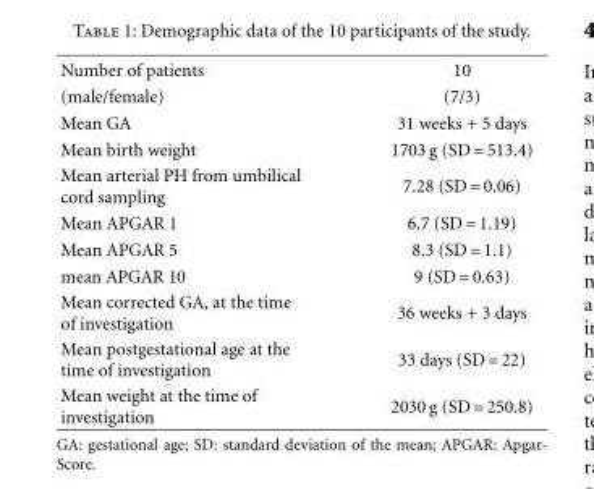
<table><tbody><tr><td>Number of patients</td><td>10</td></tr><tr><td>(male/female)</td><td>(7/3)</td></tr><tr><td>Mean GA</td><td>31 weeks + 5 days</td></tr><tr><td>Mean birth weight</td><td>1703 g (SD = 513.4)</td></tr><tr><td>Mean arterial PH from umbilical cord sampling</td><td>7.28 (SD = 0.06)</td></tr><tr><td>Mean APGAR 1</td><td>6.7 (SD = 1.19)</td></tr><tr><td>Mean APGAR 5</td><td>8.3 (SD = 1.1)</td></tr><tr><td>mean APGAR 10</td><td>9 (SD = 0.63)</td></tr><tr><td>Mean corrected GA, at the time of investigation</td><td>36 weeks + 3 days</td></tr><tr><td>Mean postgestational age at the time of investigation</td><td>33 days (SD = 22)</td></tr><tr><td>Mean weight at the time of investigation</td><td>2030 g (SD = 250.8)</td></tr></tbody></table>